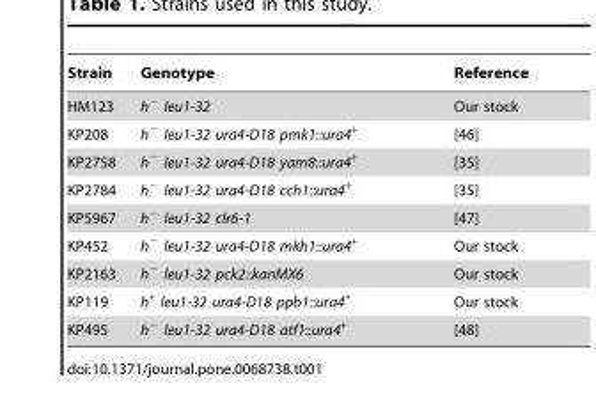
<table><thead><tr><td>Strain</td><td>Genotype</td><td>Reference</td></tr></thead><tbody><tr><td>HM123</td><td>h<sup>−</sup> leu1-32</td><td>Our stock</td></tr><tr><td>KP208</td><td>h<sup>−</sup> leu1-32 ura4-D18 pmk1::ura4<sup>+</sup></td><td>[46]</td></tr><tr><td>KP2758</td><td>h<sup>−</sup> leu1-32 ura4-D18 yam8::ura4<sup>+</sup></td><td>[35]</td></tr><tr><td>KP2784</td><td>h<sup>−</sup> leu1-32 ura4-D18 cch1::ura4<sup>+</sup></td><td>[35]</td></tr><tr><td>KP5967</td><td>h<sup>−</sup> leu1-32 clr6-1</td><td>[47]</td></tr><tr><td>KP452</td><td>h<sup>−</sup> leu1-32 ura4-D18 mkh1::ura4<sup>+</sup></td><td>Our stock</td></tr><tr><td>KP2163</td><td>h<sup>−</sup> leu1-32 pck2::kanMX6</td><td>Our stock</td></tr><tr><td>KP119</td><td>h<sup>+</sup> leu1-32 ura4-D18 ppb1::ura4<sup>+</sup></td><td>Our stock</td></tr><tr><td>KP495</td><td>h<sup>−</sup> leu1-32 ura4-D18 atf1::ura4<sup>+</sup></td><td>[48]</td></tr></tbody></table>